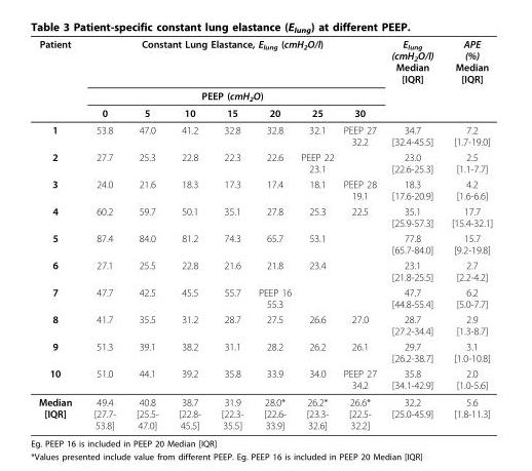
<table><thead><tr><td rowspan="3">Patient</td><td rowspan="2" colspan="7">Constant Lung Elastance, E<sub>lung</sub> (cmH<sub>2</sub>O/l) PEEP (cmH<sub>2</sub>O)</td><td rowspan="3">E<sub>lung</sub> (cmH<sub>2</sub>O/l) Median [IQR]</td><td rowspan="3">APE (%) Median [IQR]</td></tr><tr></tr><tr><td>0</td><td>5</td><td>10</td><td>15</td><td>20</td><td>25</td><td>30</td></tr></thead><tbody><tr><td>1</td><td>53.8</td><td>47.0</td><td>41.2</td><td>32.8</td><td>32.8</td><td>32.1</td><td>PEEP 27 32.2</td><td>34.7 [32.4-45.5]</td><td>7.2 [1.7-19.0]</td></tr><tr><td>2</td><td>27.7</td><td>25.3</td><td>22.8</td><td>22.3</td><td>22.6</td><td>PEEP 22 23.1</td><td></td><td>23.0 [22.6-25.3]</td><td>2.5 [1.1-7.7]</td></tr><tr><td>3</td><td>24.0</td><td>21.6</td><td>18.3</td><td>17.3</td><td>17.4</td><td>18.1</td><td>PEEP 28 19.1</td><td>18.3 [17.6-20.9]</td><td>4.2 [1.6-6.6]</td></tr><tr><td>4</td><td>60.2</td><td>59.7</td><td>50.1</td><td>35.1</td><td>27.8</td><td>25.3</td><td>22.5</td><td>35.1 [25.9-57.3]</td><td>17.7 [15.4-32.1]</td></tr><tr><td>5</td><td>87.4</td><td>84.0</td><td>81.2</td><td>74.3</td><td>65.7</td><td>53.1</td><td></td><td>77.8 [65.7-84.0]</td><td>15.7 [9.2-19.8]</td></tr><tr><td>6</td><td>27.1</td><td>25.5</td><td>22.8</td><td>21.6</td><td>21.8</td><td>23.4</td><td></td><td>23.1 [21.8-25.5]</td><td>2.7 [2.2-4.2]</td></tr><tr><td>7</td><td>47.7</td><td>42.5</td><td>45.5</td><td>55.7</td><td>PEEP 16 55.3</td><td></td><td></td><td>47.7 [44.8-55.4]</td><td>6.2 [5.0-7.7]</td></tr><tr><td>8</td><td>41.7</td><td>35.5</td><td>31.2</td><td>28.7</td><td>27.5</td><td>26.6</td><td>27.0</td><td>28.7 [27.2-34.4]</td><td>2.9 [1.3-8.7]</td></tr><tr><td>9</td><td>51.3</td><td>39.1</td><td>38.2</td><td>31.1</td><td>28.2</td><td>26.2</td><td>26.1</td><td>29.7 [26.2-38.7]</td><td>3.1 [1.0-10.8]</td></tr><tr><td>10</td><td>51.0</td><td>44.1</td><td>39.2</td><td>35.8</td><td>33.9</td><td>34.0</td><td>PEEP 27 34.2</td><td>35.8 [34.1-42.9]</td><td>2.0 [1.0-5.6]</td></tr><tr><td>Median [IQR]</td><td>49.4 [27.7- 53.8]</td><td>40.8 [25.5- 47.0]</td><td>38.7 [22.8- 45.5]</td><td>31.9 [22.3- 35.5]</td><td>28.0* [22.6- 33.9]</td><td>26.2* [23.3- 32.6]</td><td>26.6* [22.5- 32.2]</td><td>32.2 [25.0-45.9]</td><td>5.6 [1.8-11.3]</td></tr></tbody></table>